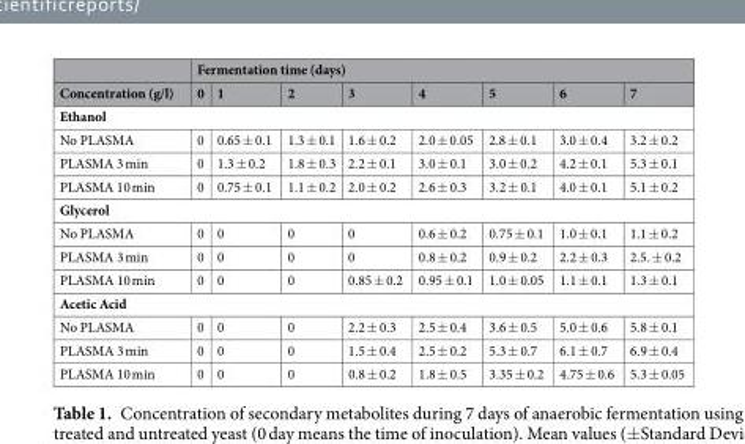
<table><thead><tr><td rowspan="2">Concentration (g/l)</td><td colspan="8">Fermentation time (days)</td></tr><tr><td>0</td><td>1</td><td>2</td><td>3</td><td>4</td><td>5</td><td>6</td><td>7</td></tr></thead><tbody><tr><td colspan="9">Ethanol</td></tr><tr><td>No PLASMA</td><td>0</td><td>0.65 ± 0.1</td><td>1.3 ± 0.1</td><td>1.6 ± 0.2</td><td>2.0 ± 0.05</td><td>2.8 ± 0.1</td><td>3.0 ± 0.4</td><td>3.2 ± 0.2</td></tr><tr><td>PLASMA 3 min</td><td>0</td><td>1.3 ± 0.2</td><td>1.8 ± 0.3</td><td>2.2 ± 0.1</td><td>3.0 ± 0.1</td><td>3.0 ± 0.2</td><td>4.2 ± 0.1</td><td>5.3 ± 0.1</td></tr><tr><td>PLASMA 10 min</td><td>0</td><td>0.75 ± 0.1</td><td>1.1 ± 0.2</td><td>2.0 ± 0.2</td><td>2.6 ± 0.3</td><td>3.2 ± 0.1</td><td>4.0 ± 0.1</td><td>5.1 ± 0.2</td></tr><tr><td colspan="9">Glycerol</td></tr><tr><td>No PLASMA</td><td>0</td><td>0</td><td>0</td><td>0</td><td>0.6 ± 0.2</td><td>0.75 ± 0.1</td><td>1.0 ± 0.1</td><td>1.1 ± 0.2</td></tr><tr><td>PLASMA 3 min</td><td>0</td><td>0</td><td>0</td><td>0</td><td>0.8 ± 0.2</td><td>0.9 ± 0.2</td><td>2.2 ± 0.3</td><td>2.5. ± 0.2</td></tr><tr><td>PLASMA 10 min</td><td>0</td><td>0</td><td>0</td><td>0.85 ± 0.2</td><td>0.95 ± 0.1</td><td>1.0 ± 0.05</td><td>1.1 ± 0.1</td><td>1.3 ± 0.1</td></tr><tr><td colspan="9">Acetic Acid</td></tr><tr><td>No PLASMA</td><td>0</td><td>0</td><td>0</td><td>2.2 ± 0.3</td><td>2.5 ± 0.4</td><td>3.6 ± 0.5</td><td>5.0 ± 0.6</td><td>5.8 ± 0.1</td></tr><tr><td>PLASMA 3 min</td><td>0</td><td>0</td><td>0</td><td>1.5 ± 0.4</td><td>2.5 ± 0.2</td><td>5.3 ± 0.7</td><td>6.1 ± 0.7</td><td>6.9 ± 0.4</td></tr><tr><td>PLASMA 10 min</td><td>0</td><td>0</td><td>0</td><td>0.8 ± 0.2</td><td>1.8 ± 0.5</td><td>3.35 ± 0.2</td><td>4.75 ± 0.6</td><td>5.3 ± 0.05</td></tr></tbody></table>